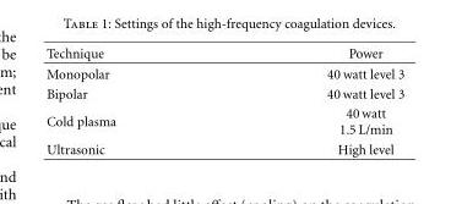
<table><thead><tr><td>Technique</td><td>Power</td></tr></thead><tbody><tr><td>Monopolar</td><td>40 watt level 3</td></tr><tr><td>Bipolar</td><td>40 watt level 3</td></tr><tr><td>Cold plasma</td><td>40 watt 1.5 L/min</td></tr><tr><td>Ultrasonic</td><td>High level</td></tr></tbody></table>